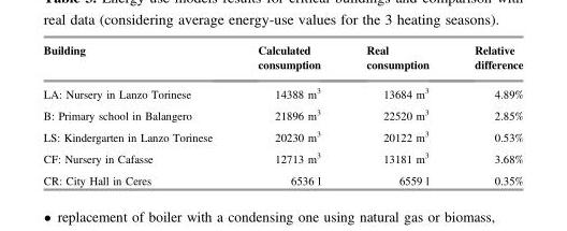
<table><thead><tr><td>Building</td><td>Calculated consumption</td><td>Real consumption</td><td>Relative difference</td></tr></thead><tbody><tr><td>LA: Nursery in Lanzo Torinese</td><td>14388 m<sup>3</sup></td><td>13684 m<sup>3</sup></td><td>4.89%</td></tr><tr><td>B: Primary school in Balangero</td><td>21896 m<sup>3</sup></td><td>22520 m<sup>3</sup></td><td>2.85%</td></tr><tr><td>LS: Kindergarten in Lanzo Torinese</td><td>20230 m<sup>3</sup></td><td>20122 m<sup>3</sup></td><td>0.53%</td></tr><tr><td>CF: Nursery in Cafasse</td><td>12713 m<sup>3</sup></td><td>13181 m<sup>3</sup></td><td>3.68%</td></tr><tr><td>CR: City Hall in Ceres</td><td>6536 l</td><td>6559 l</td><td>0.35%</td></tr></tbody></table>